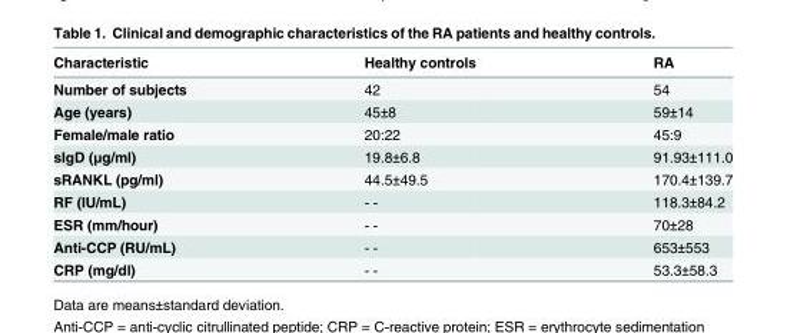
<table><thead><tr><td>Characteristic</td><td>Healthy controls</td><td>RA</td></tr></thead><tbody><tr><td>Number of subjects</td><td>42</td><td>54</td></tr><tr><td>Age (years)</td><td>45±8</td><td>59±14</td></tr><tr><td>Female/male ratio</td><td>20:22</td><td>45:9</td></tr><tr><td>sIgD (μg/ml)</td><td>19.8±6.8</td><td>91.93±111.0</td></tr><tr><td>sRANKL (pg/ml)</td><td>44.5±49.5</td><td>170.4±139.7</td></tr><tr><td>RF (IU/mL)</td><td>- -</td><td>118.3±84.2</td></tr><tr><td>ESR (mm/hour)</td><td>- -</td><td>70±28</td></tr><tr><td>Anti-CCP (RU/mL)</td><td>- -</td><td>653±553</td></tr><tr><td>CRP (mg/dl)</td><td>- -</td><td>53.3±58.3</td></tr></tbody></table>